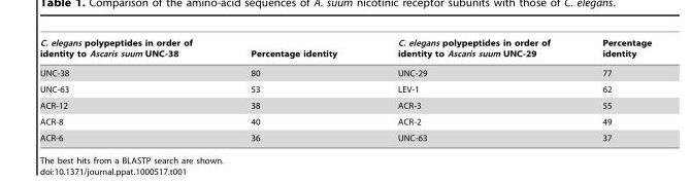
<table><thead><tr><td>C. elegans polypeptides in order of identity to Ascaris suum UNC-38</td><td>Percentage identity</td><td>C. elegans polypeptides in order of identity to Ascaris suum UNC-29</td><td>Percentage identity</td></tr></thead><tbody><tr><td>UNC-38</td><td>80</td><td>UNC-29</td><td>77</td></tr><tr><td>UNC-63</td><td>53</td><td>LEV-1</td><td>62</td></tr><tr><td>ACR-12</td><td>38</td><td>ACR-3</td><td>55</td></tr><tr><td>ACR-8</td><td>40</td><td>ACR-2</td><td>49</td></tr><tr><td>ACR-6</td><td>36</td><td>UNC-63</td><td>37</td></tr></tbody></table>